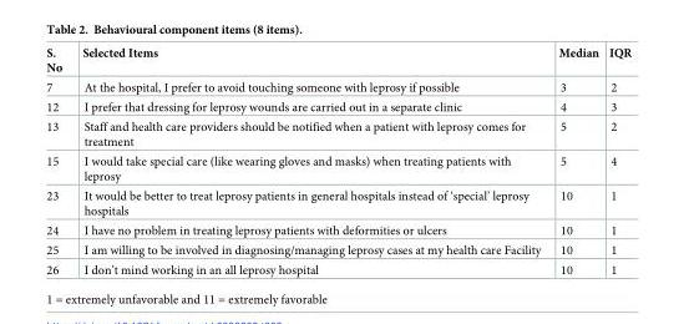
<table><thead><tr><td>S. No</td><td>Selected Items</td><td>Median</td><td>IQR</td></tr></thead><tbody><tr><td>7</td><td>At the hospital, I prefer to avoid touching someone with leprosy if possible</td><td>3</td><td>2</td></tr><tr><td>12</td><td>I prefer that dressing for leprosy wounds are carried out in a separate clinic</td><td>4</td><td>3</td></tr><tr><td>13</td><td>Staff and health care providers should be notified when a patient with leprosy comes for treatment</td><td>5</td><td>2</td></tr><tr><td>15</td><td>I would take special care (like wearing gloves and masks) when treating patients with leprosy</td><td>5</td><td>4</td></tr><tr><td>23</td><td>It would be better to treat leprosy patients in general hospitals instead of ‘special’ leprosy hospitals</td><td>10</td><td>1</td></tr><tr><td>24</td><td>I have no problem in treating leprosy patients with deformities or ulcers</td><td>10</td><td>1</td></tr><tr><td>25</td><td>I am willing to be involved in diagnosing/managing leprosy cases at my health care Facility</td><td>10</td><td>1</td></tr><tr><td>26</td><td>I don’t mind working in an all leprosy hospital</td><td>10</td><td>1</td></tr></tbody></table>